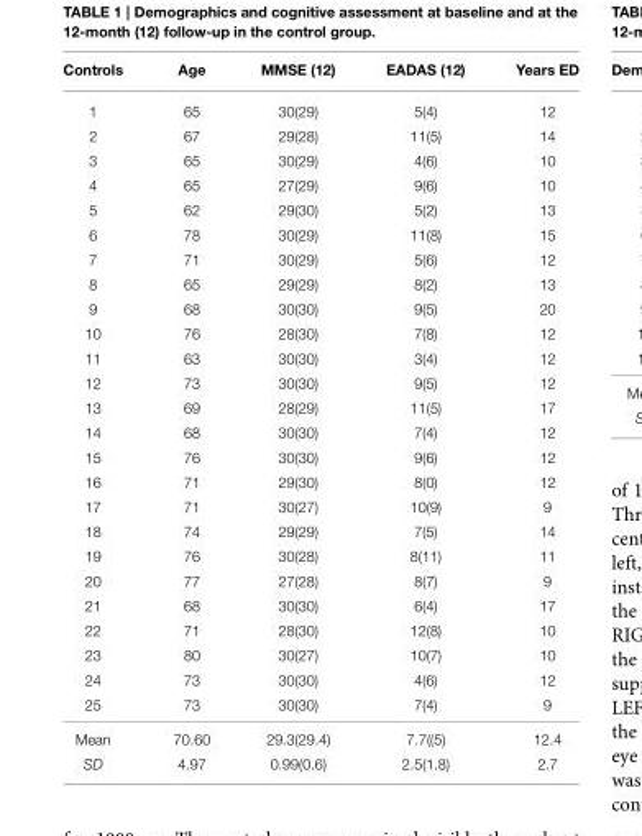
<table><thead><tr><td>Controls</td><td>Age</td><td>MMSE (12)</td><td>EADAS (12)</td><td>Years ED</td></tr></thead><tbody><tr><td>1</td><td>65</td><td>30(29)</td><td>5(4)</td><td>12</td></tr><tr><td>2</td><td>67</td><td>29(28)</td><td>11(5)</td><td>14</td></tr><tr><td>3</td><td>65</td><td>30(29)</td><td>4(6)</td><td>10</td></tr><tr><td>4</td><td>65</td><td>27(29)</td><td>9(6)</td><td>10</td></tr><tr><td>5</td><td>62</td><td>29(30)</td><td>5(2)</td><td>13</td></tr><tr><td>6</td><td>78</td><td>30(29)</td><td>11(8)</td><td>15</td></tr><tr><td>7</td><td>71</td><td>30(29)</td><td>5(6)</td><td>12</td></tr><tr><td>8</td><td>65</td><td>29(29)</td><td>8(2)</td><td>13</td></tr><tr><td>9</td><td>68</td><td>30(30)</td><td>9(5)</td><td>20</td></tr><tr><td>10</td><td>76</td><td>28(30)</td><td>7(8)</td><td>12</td></tr><tr><td>11</td><td>63</td><td>30(30)</td><td>3(4)</td><td>12</td></tr><tr><td>12</td><td>73</td><td>30(30)</td><td>9(5)</td><td>12</td></tr><tr><td>13</td><td>69</td><td>28(29)</td><td>11(5)</td><td>17</td></tr><tr><td>14</td><td>68</td><td>30(30)</td><td>7(4)</td><td>12</td></tr><tr><td>15</td><td>76</td><td>30(30)</td><td>9(6)</td><td>12</td></tr><tr><td>16</td><td>71</td><td>29(30)</td><td>8(0)</td><td>12</td></tr><tr><td>17</td><td>71</td><td>30(27)</td><td>10(9)</td><td>9</td></tr><tr><td>18</td><td>74</td><td>29(29)</td><td>7(5)</td><td>14</td></tr><tr><td>19</td><td>76</td><td>30(28)</td><td>8(11)</td><td>11</td></tr><tr><td>20</td><td>77</td><td>27(28)</td><td>8(7)</td><td>9</td></tr><tr><td>21</td><td>68</td><td>30(30)</td><td>6(4)</td><td>17</td></tr><tr><td>22</td><td>71</td><td>28(30)</td><td>12(8)</td><td>10</td></tr><tr><td>23</td><td>80</td><td>30(27)</td><td>10(7)</td><td>10</td></tr><tr><td>24</td><td>73</td><td>30(30)</td><td>4(6)</td><td>12</td></tr><tr><td>25</td><td>73</td><td>30(30)</td><td>7(4)</td><td>9</td></tr><tr><td>Mean</td><td>70.60</td><td>29.3(29.4)</td><td>7.7((5)</td><td>12.4</td></tr><tr><td>SD</td><td>4.97</td><td>0.99(0.6)</td><td>2.5(1.8)</td><td>2.7</td></tr></tbody></table>